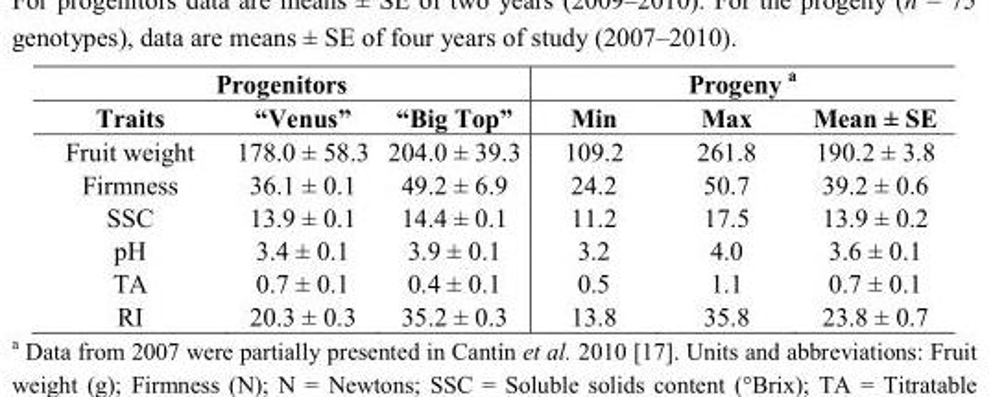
<table><thead><tr><td colspan="3">Progenitors</td><td colspan="3">Progeny a</td></tr><tr><td>Traits</td><td>“Venus”</td><td>“Big Top”</td><td>Min</td><td>Max</td><td>Mean ± SE</td></tr></thead><tbody><tr><td>Fruit weight</td><td>178.0 ± 58.3</td><td>204.0 ± 39.3</td><td>109.2</td><td>261.8</td><td>190.2 ± 3.8</td></tr><tr><td>Firmness</td><td>36.1 ± 0.1</td><td>49.2 ± 6.9</td><td>24.2</td><td>50.7</td><td>39.2 ± 0.6</td></tr><tr><td>SSC</td><td>13.9 ± 0.1</td><td>14.4 ± 0.1</td><td>11.2</td><td>17.5</td><td>13.9 ± 0.2</td></tr><tr><td>pH</td><td>3.4 ± 0.1</td><td>3.9 ± 0.1</td><td>3.2</td><td>4.0</td><td>3.6 ± 0.1</td></tr><tr><td>TA</td><td>0.7 ± 0.1</td><td>0.4 ± 0.1</td><td>0.5</td><td>1.1</td><td>0.7 ± 0.1</td></tr><tr><td>RI</td><td>20.3 ± 0.3</td><td>35.2 ± 0.3</td><td>13.8</td><td>35.8</td><td>23.8 ± 0.7</td></tr></tbody></table>